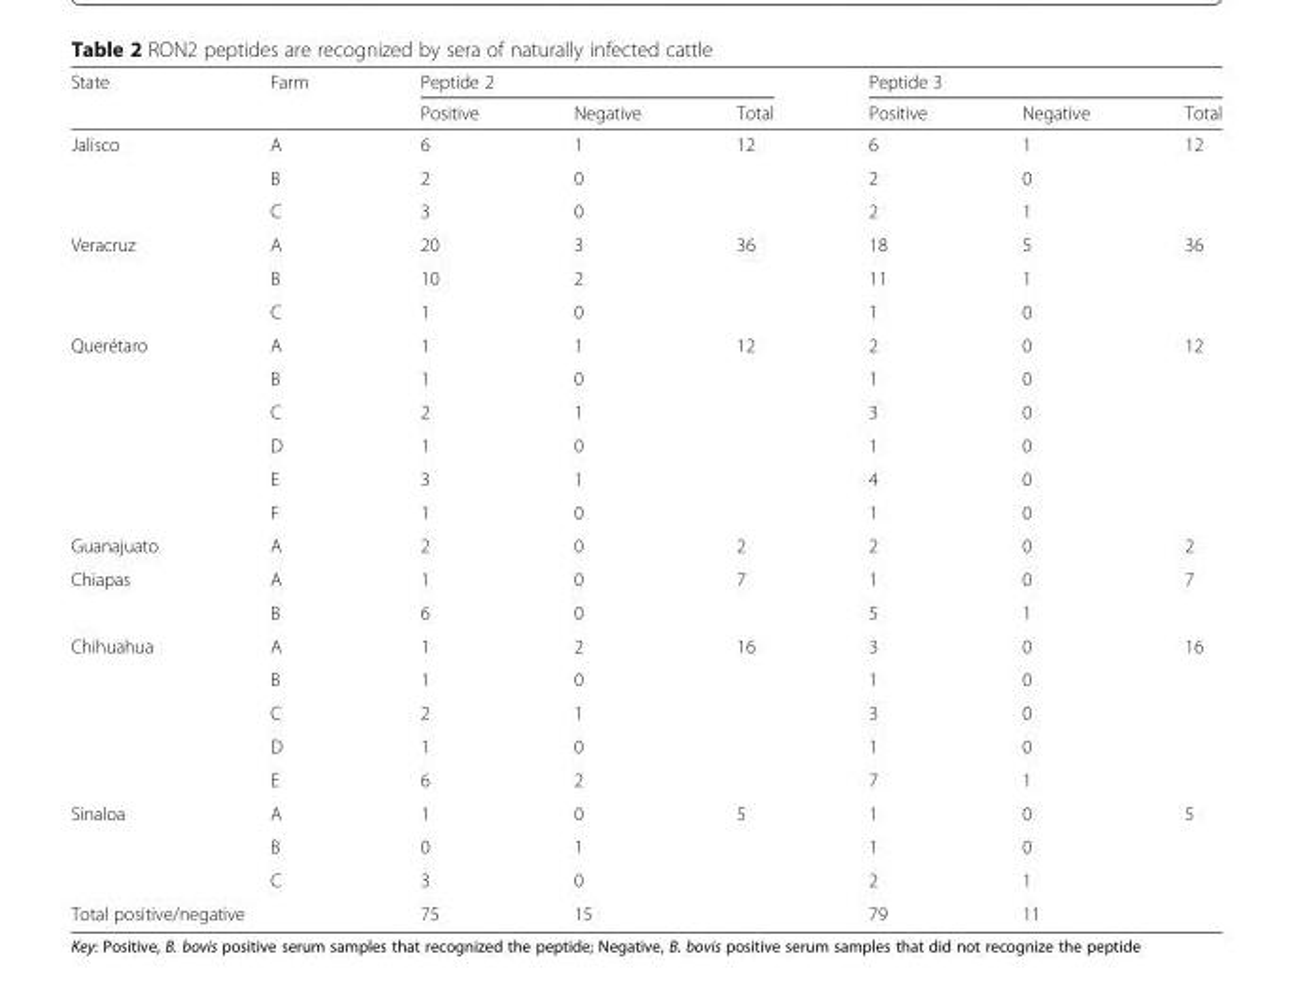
<table><thead><tr><td rowspan="2">State</td><td rowspan="2">Farm</td><td colspan="3">Peptide 2</td><td colspan="3">Peptide 3</td></tr><tr><td>Positive</td><td>Negative</td><td>Total</td><td>Positive</td><td>Negative</td><td>Total</td></tr></thead><tbody><tr><td rowspan="3">Jalisco</td><td>A</td><td>6</td><td>1</td><td rowspan="3">12</td><td>6</td><td>1</td><td rowspan="3">12</td></tr><tr><td>B</td><td>2</td><td>0</td><td>2</td><td>0</td></tr><tr><td>C</td><td>3</td><td>0</td><td>2</td><td>1</td></tr><tr><td rowspan="3">Veracruz</td><td>A</td><td>20</td><td>3</td><td rowspan="3">36</td><td>18</td><td>5</td><td rowspan="3">36</td></tr><tr><td>B</td><td>10</td><td>2</td><td>11</td><td>1</td></tr><tr><td>C</td><td>1</td><td>0</td><td>1</td><td>0</td></tr><tr><td rowspan="6">Querétaro</td><td>A</td><td>1</td><td>1</td><td rowspan="6">12</td><td>2</td><td>0</td><td rowspan="6">12</td></tr><tr><td>B</td><td>1</td><td>0</td><td>1</td><td>0</td></tr><tr><td>C</td><td>2</td><td>1</td><td>3</td><td>0</td></tr><tr><td>D</td><td>1</td><td>0</td><td>1</td><td>0</td></tr><tr><td>E</td><td>3</td><td>1</td><td>4</td><td>0</td></tr><tr><td>F</td><td>1</td><td>0</td><td>1</td><td>0</td></tr><tr><td>Guanajuato</td><td>A</td><td>2</td><td>0</td><td>2</td><td>2</td><td>0</td><td>2</td></tr><tr><td rowspan="2">Chiapas</td><td>A</td><td>1</td><td>0</td><td rowspan="2">7</td><td>1</td><td>0</td><td rowspan="2">7</td></tr><tr><td>B</td><td>6</td><td>0</td><td>5</td><td>1</td></tr><tr><td rowspan="5">Chihuahua</td><td>A</td><td>1</td><td>2</td><td rowspan="5">16</td><td>3</td><td>0</td><td rowspan="5">16</td></tr><tr><td>B</td><td>1</td><td>0</td><td>1</td><td>0</td></tr><tr><td>C</td><td>2</td><td>1</td><td>3</td><td>0</td></tr><tr><td>D</td><td>1</td><td>0</td><td>1</td><td>0</td></tr><tr><td>E</td><td>6</td><td>2</td><td>7</td><td>1</td></tr><tr><td rowspan="3">Sinaloa</td><td>A</td><td>1</td><td>0</td><td rowspan="3">5</td><td>1</td><td>0</td><td rowspan="3">5</td></tr><tr><td>B</td><td>0</td><td>1</td><td>1</td><td>0</td></tr><tr><td>C</td><td>3</td><td>0</td><td>2</td><td>1</td></tr><tr><td colspan="2">Total positive/negative</td><td>75</td><td>15</td><td></td><td>79</td><td>11</td><td></td></tr></tbody></table>